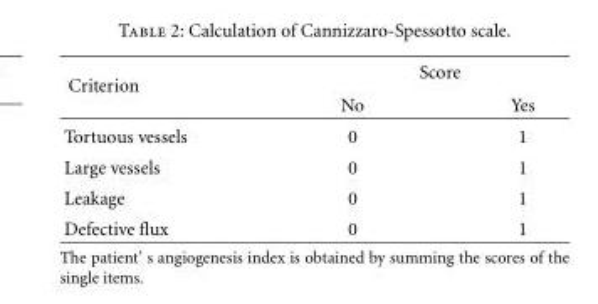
<table><thead><tr><td rowspan="2">Criterion</td><td colspan="2">Score</td></tr><tr><td>No</td><td>Yes</td></tr></thead><tbody><tr><td>Tortuous vessels</td><td>0</td><td>1</td></tr><tr><td>Large vessels</td><td>0</td><td>1</td></tr><tr><td>Leakage</td><td>0</td><td>1</td></tr><tr><td>Defective flux</td><td>0</td><td>1</td></tr></tbody></table>